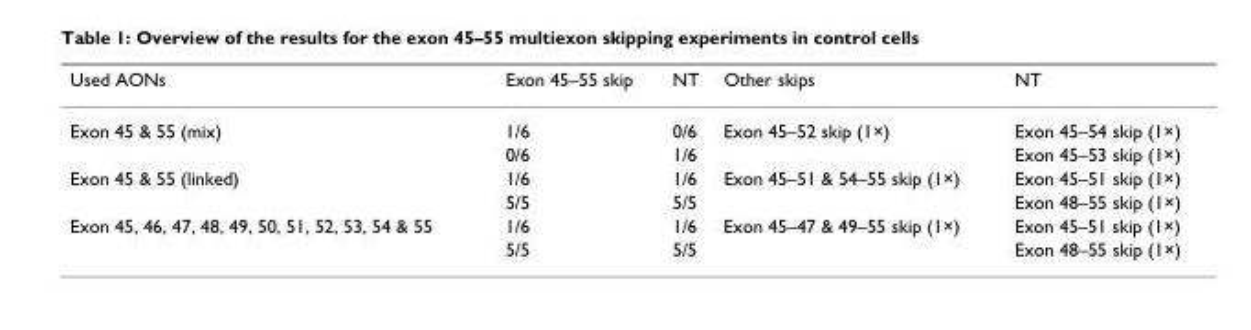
<table><thead><tr><td>Used AONs</td><td>Exon 45–55 skip</td><td>NT</td><td>Other skips</td><td>NT</td></tr></thead><tbody><tr><td rowspan="2">Exon 45 &amp; 55 (mix)</td><td>1/6</td><td>0/6</td><td>Exon 45–52 skip (1×)</td><td>Exon 45–54 skip (1×)</td></tr><tr><td>0/6</td><td>1/6</td><td></td><td>Exon 45–53 skip (1×)</td></tr><tr><td rowspan="2">Exon 45 &amp; 55 (linked)</td><td>1/6</td><td>1/6</td><td>Exon 45–51 &amp; 54–55 skip (1×)</td><td>Exon 45–51 skip (1×)</td></tr><tr><td>5/5</td><td>5/5</td><td></td><td>Exon 48–55 skip (1×)</td></tr><tr><td rowspan="2">Exon 45, 46, 47, 48, 49, 50, 51, 52, 53, 54 &amp; 55</td><td>1/6</td><td>1/6</td><td>Exon 45–47 &amp; 49–55 skip (1×)</td><td>Exon 45–51 skip (1×)</td></tr><tr><td>5/5</td><td>5/5</td><td></td><td>Exon 48–55 skip (1×)</td></tr></tbody></table>